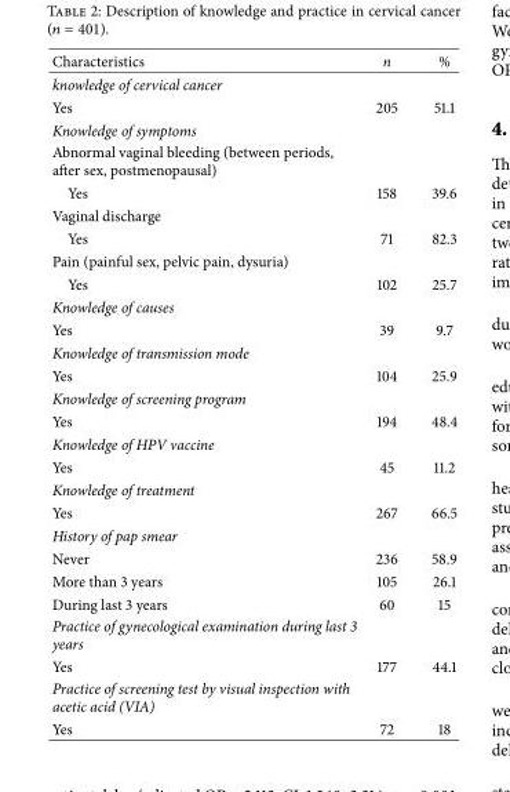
<table><thead><tr><td>Characteristics</td><td>n</td><td>%</td></tr></thead><tbody><tr><td colspan="3">knowledge of cervical cancer</td></tr><tr><td>Yes</td><td>205</td><td>51.1</td></tr><tr><td colspan="3">Knowledge of symptoms</td></tr><tr><td colspan="3">Abnormal vaginal bleeding (between periods, after sex, postmenopausal)</td></tr><tr><td>Yes</td><td>158</td><td>39.6</td></tr><tr><td colspan="3">Vaginal discharge</td></tr><tr><td>Yes</td><td>71</td><td>82.3</td></tr><tr><td colspan="3">Pain (painful sex, pelvic pain, dysuria)</td></tr><tr><td>Yes</td><td>102</td><td>25.7</td></tr><tr><td colspan="3">Knowledge of causes</td></tr><tr><td>Yes</td><td>39</td><td>9.7</td></tr><tr><td colspan="3">Knowledge of transmission mode</td></tr><tr><td>Yes</td><td>104</td><td>25.9</td></tr><tr><td colspan="3">Knowledge of screening program</td></tr><tr><td>Yes</td><td>194</td><td>48.4</td></tr><tr><td colspan="3">Knowledge of HPV vaccine</td></tr><tr><td>Yes</td><td>45</td><td>11.2</td></tr><tr><td colspan="3">Knowledge of treatment</td></tr><tr><td>Yes</td><td>267</td><td>66.5</td></tr><tr><td colspan="3">History of pap smear</td></tr><tr><td>Never</td><td>236</td><td>58.9</td></tr><tr><td>More than 3 years</td><td>105</td><td>26.1</td></tr><tr><td>During last 3 years</td><td>60</td><td>15</td></tr><tr><td colspan="3">Practice of gynecological examination during last 3 years</td></tr><tr><td>Yes</td><td>177</td><td>44.1</td></tr><tr><td colspan="3">Practice of screening test by visual inspection with acetic acid (VIA)</td></tr><tr><td>Yes</td><td>72</td><td>18</td></tr></tbody></table>